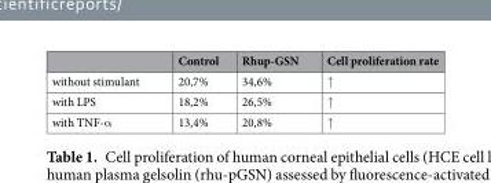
<table><thead><tr><td></td><td>Control</td><td>Rhup-GSN</td><td>Cell proliferation rate</td></tr></thead><tbody><tr><td>without stimulant</td><td>20,7%</td><td>34,6%</td><td>↑</td></tr><tr><td>with LPS</td><td>18,2%</td><td>26,5%</td><td>↑</td></tr><tr><td>with TNF-α</td><td>13,4%</td><td>20,8%</td><td>↑</td></tr></tbody></table>